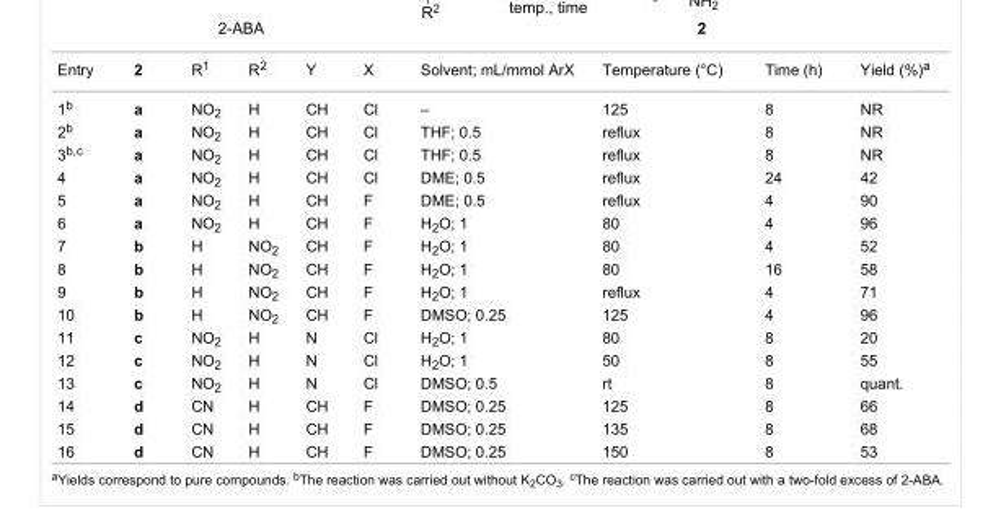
<table><tbody><tr><td>Entry</td><td>2</td><td>R<sup>1</sup></td><td>R<sup>2</sup></td><td>Y</td><td>X</td><td>Solvent; mL/mmol ArX</td><td>Temperature (°C)</td><td>Time (h)</td><td>Yield (%)<sup>a</sup></td></tr><tr><td>1<sup>b</sup></td><td>a</td><td>NO<sub>2</sub></td><td>H</td><td>CH</td><td>Cl</td><td>–</td><td>125</td><td>8</td><td>NR</td></tr><tr><td>2<sup>b</sup></td><td>a</td><td>NO<sub>2</sub></td><td>H</td><td>CH</td><td>Cl</td><td>THF; 0.5</td><td>reflux</td><td>8</td><td>NR</td></tr><tr><td>3<sup>b,c</sup></td><td>a</td><td>NO<sub>2</sub></td><td>H</td><td>CH</td><td>Cl</td><td>THF; 0.5</td><td>reflux</td><td>8</td><td>NR</td></tr><tr><td>4</td><td>a</td><td>NO<sub>2</sub></td><td>H</td><td>CH</td><td>Cl</td><td>DME; 0.5</td><td>reflux</td><td>24</td><td>42</td></tr><tr><td>5</td><td>a</td><td>NO<sub>2</sub></td><td>H</td><td>CH</td><td>F</td><td>DME; 0.5</td><td>reflux</td><td>4</td><td>90</td></tr><tr><td>6</td><td>a</td><td>NO<sub>2</sub></td><td>H</td><td>CH</td><td>F</td><td>H<sub>2</sub>O; 1</td><td>80</td><td>4</td><td>96</td></tr><tr><td>7</td><td>b</td><td>H</td><td>NO<sub>2</sub></td><td>CH</td><td>F</td><td>H<sub>2</sub>O; 1</td><td>80</td><td>4</td><td>52</td></tr><tr><td>8</td><td>b</td><td>H</td><td>NO<sub>2</sub></td><td>CH</td><td>F</td><td>H<sub>2</sub>O; 1</td><td>80</td><td>16</td><td>58</td></tr><tr><td>9</td><td>b</td><td>H</td><td>NO<sub>2</sub></td><td>CH</td><td>F</td><td>H<sub>2</sub>O; 1</td><td>reflux</td><td>4</td><td>71</td></tr><tr><td>10</td><td>b</td><td>H</td><td>NO<sub>2</sub></td><td>CH</td><td>F</td><td>DMSO; 0.25</td><td>125</td><td>4</td><td>96</td></tr><tr><td>11</td><td>c</td><td>NO<sub>2</sub></td><td>H</td><td>N</td><td>Cl</td><td>H<sub>2</sub>O; 1</td><td>80</td><td>8</td><td>20</td></tr><tr><td>12</td><td>c</td><td>NO<sub>2</sub></td><td>H</td><td>N</td><td>Cl</td><td>H<sub>2</sub>O; 1</td><td>50</td><td>8</td><td>55</td></tr><tr><td>13</td><td>c</td><td>NO<sub>2</sub></td><td>H</td><td>N</td><td>Cl</td><td>DMSO; 0.5</td><td>rt</td><td>8</td><td>quant.</td></tr><tr><td>14</td><td>d</td><td>CN</td><td>H</td><td>CH</td><td>F</td><td>DMSO; 0.25</td><td>125</td><td>8</td><td>66</td></tr><tr><td>15</td><td>d</td><td>CN</td><td>H</td><td>CH</td><td>F</td><td>DMSO; 0.25</td><td>135</td><td>8</td><td>68</td></tr><tr><td>16</td><td>d</td><td>CN</td><td>H</td><td>CH</td><td>F</td><td>DMSO; 0.25</td><td>150</td><td>8</td><td>53</td></tr></tbody></table>